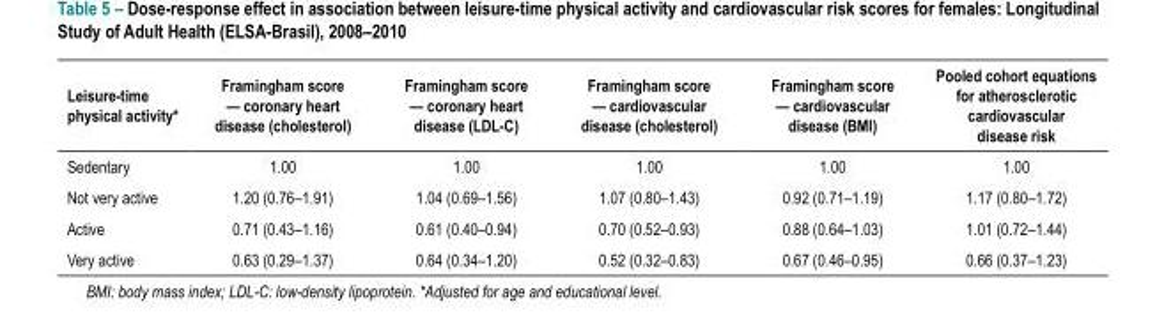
<table><thead><tr><td>Leisure-time physical activity*</td><td>Framingham score — coronary heart disease (cholesterol)</td><td>Framingham score — coronary heart disease (LDL-C)</td><td>Framingham score — cardiovascular disease (cholesterol)</td><td>Framingham score — cardiovascular disease (BMI)</td><td>Pooled cohort equations for atherosclerotic cardiovascular disease risk</td></tr></thead><tbody><tr><td>Sedentary</td><td>1.00</td><td>1.00</td><td>1.00</td><td>1.00</td><td>1.00</td></tr><tr><td>Not very active</td><td>1.20 (0.76–1.91)</td><td>1.04 (0.69–1.56)</td><td>1.07 (0.80–1.43)</td><td>0.92 (0.71–1.19)</td><td>1.17 (0.80–1.72)</td></tr><tr><td>Active</td><td>0.71 (0.43–1.16)</td><td>0.61 (0.40–0.94)</td><td>0.70 (0.52–0.93)</td><td>0.88 (0.64–1.03)</td><td>1.01 (0.72–1.44)</td></tr><tr><td>Very active</td><td>0.63 (0.29–1.37)</td><td>0.64 (0.34–1.20)</td><td>0.52 (0.32–0.83)</td><td>0.67 (0.46–0.95)</td><td>0.66 (0.37–1.23)</td></tr></tbody></table>